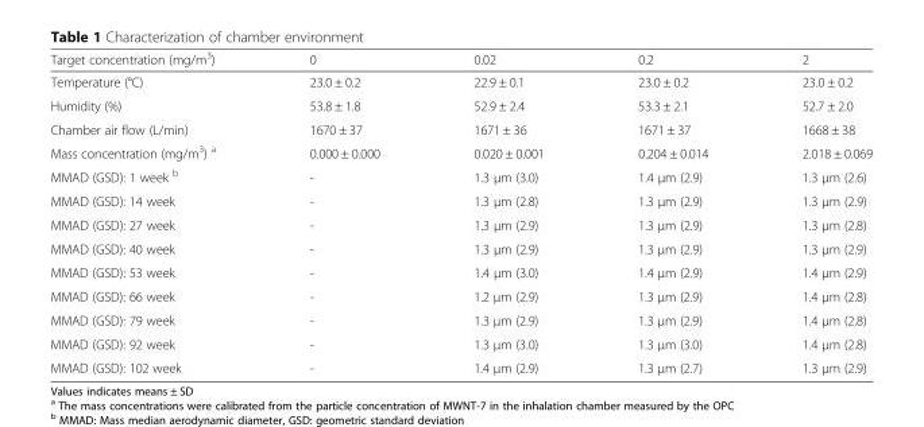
<table><thead><tr><td>Target concentration (mg/m<sup>3</sup>)</td><td>0</td><td>0.02</td><td>0.2</td><td>2</td></tr></thead><tbody><tr><td>Temperature (°C)</td><td>23.0 ± 0.2</td><td>22.9 ± 0.1</td><td>23.0 ± 0.2</td><td>23.0 ± 0.2</td></tr><tr><td>Humidity (%)</td><td>53.8 ± 1.8</td><td>52.9 ± 2.4</td><td>53.3 ± 2.1</td><td>52.7 ± 2.0</td></tr><tr><td>Chamber air flow (L/min)</td><td>1670 ± 37</td><td>1671 ± 36</td><td>1671 ± 37</td><td>1668 ± 38</td></tr><tr><td>Mass concentration (mg/m<sup>3</sup>) <sup>a</sup></td><td>0.000 ± 0.000</td><td>0.020 ± 0.001</td><td>0.204 ± 0.014</td><td>2.018 ± 0.069</td></tr><tr><td>MMAD (GSD): 1 week <sup>b</sup></td><td>-</td><td>1.3 μm (3.0)</td><td>1.4 μm (2.9)</td><td>1.3 μm (2.6)</td></tr><tr><td>MMAD (GSD): 14 week</td><td>-</td><td>1.3 μm (2.8)</td><td>1.3 μm (2.9)</td><td>1.3 μm (2.9)</td></tr><tr><td>MMAD (GSD): 27 week</td><td>-</td><td>1.3 μm (2.9)</td><td>1.3 μm (2.9)</td><td>1.3 μm (2.8)</td></tr><tr><td>MMAD (GSD): 40 week</td><td>-</td><td>1.3 μm (2.9)</td><td>1.3 μm (2.9)</td><td>1.3 μm (2.9)</td></tr><tr><td>MMAD (GSD): 53 week</td><td>-</td><td>1.4 μm (3.0)</td><td>1.4 μm (2.9)</td><td>1.4 μm (2.9)</td></tr><tr><td>MMAD (GSD): 66 week</td><td>-</td><td>1.2 μm (2.9)</td><td>1.3 μm (2.9)</td><td>1.4 μm (2.8)</td></tr><tr><td>MMAD (GSD): 79 week</td><td>-</td><td>1.3 μm (2.9)</td><td>1.3 μm (2.9)</td><td>1.4 μm (2.8)</td></tr><tr><td>MMAD (GSD): 92 week</td><td>-</td><td>1.3 μm (3.0)</td><td>1.3 μm (3.0)</td><td>1.4 μm (2.8)</td></tr><tr><td>MMAD (GSD): 102 week</td><td>-</td><td>1.4 μm (2.9)</td><td>1.3 μm (2.7)</td><td>1.3 μm (2.9)</td></tr></tbody></table>